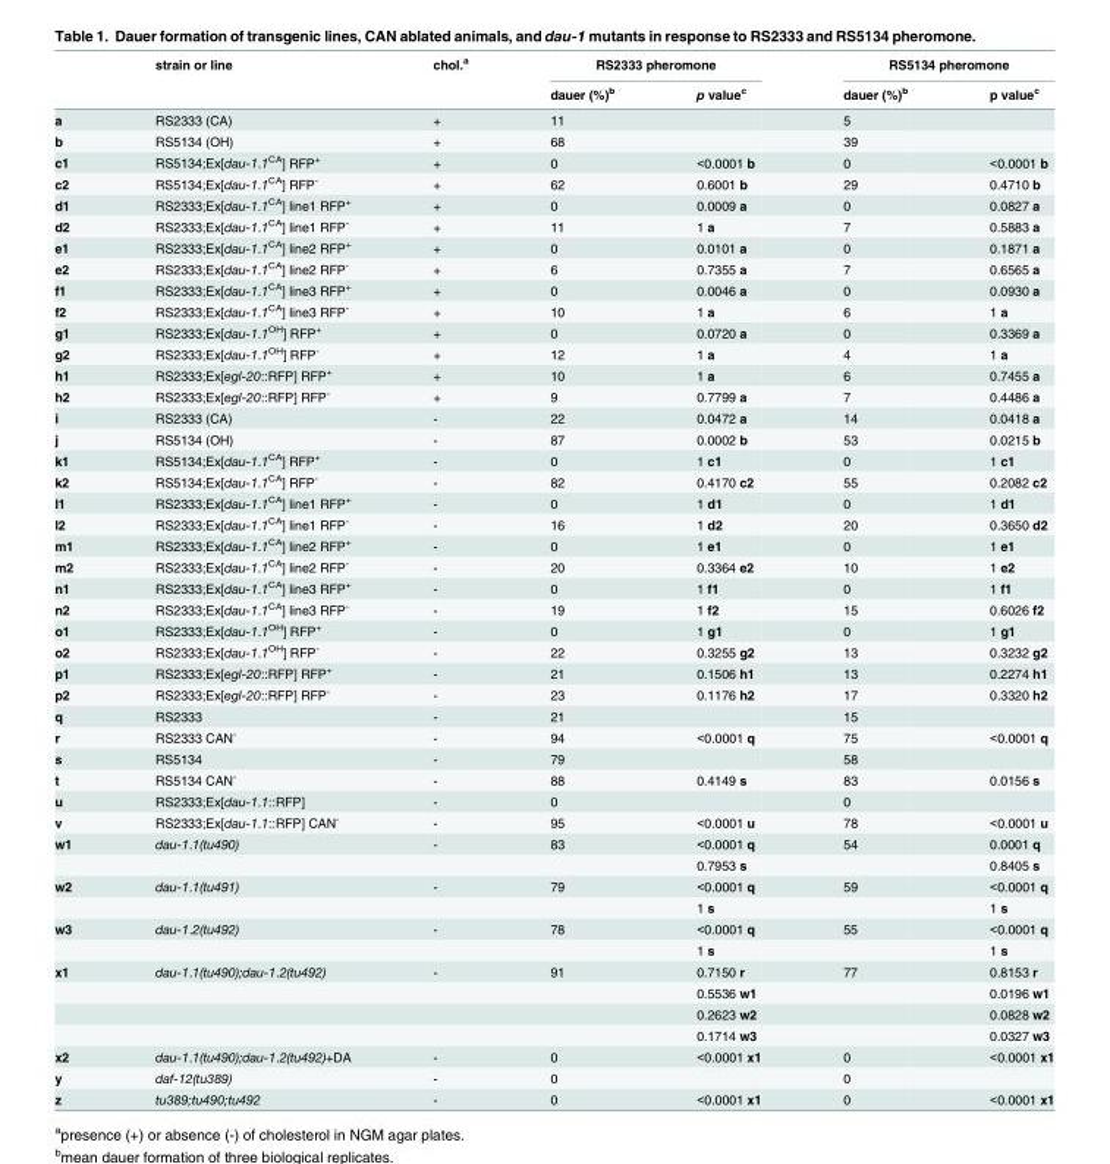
<table><thead><tr><td rowspan="2"></td><td rowspan="2">strain or line</td><td rowspan="2">chol.<sup>a</sup></td><td colspan="2">RS2333 pheromone</td><td colspan="2">RS5134 pheromone</td></tr><tr><td>dauer (%)<sup>b</sup></td><td>p value<sup>c</sup></td><td>dauer (%)<sup>b</sup></td><td>p value<sup>c</sup></td></tr></thead><tbody><tr><td>a</td><td>RS2333 (CA)</td><td>+</td><td>11</td><td></td><td>5</td><td></td></tr><tr><td>b</td><td>RS5134 (OH)</td><td>+</td><td>68</td><td></td><td>39</td><td></td></tr><tr><td>c1</td><td>RS5134;Ex[dau-1.1<sup>CA</sup>] RFP<sup>+</sup></td><td>+</td><td>0</td><td>&lt;0.0001 b</td><td>0</td><td>&lt;0.0001 b</td></tr><tr><td>c2</td><td>RS5134;Ex[dau-1.1<sup>CA</sup>] RFP<sup>-</sup></td><td>+</td><td>62</td><td>0.6001 b</td><td>29</td><td>0.4710 b</td></tr><tr><td>d1</td><td>RS2333;Ex[dau-1.1<sup>CA</sup>] line1 RFP<sup>+</sup></td><td>+</td><td>0</td><td>0.0009 a</td><td>0</td><td>0.0827 a</td></tr><tr><td>d2</td><td>RS2333;Ex[dau-1.1<sup>CA</sup>] line1 RFP<sup>-</sup></td><td>+</td><td>11</td><td>1 a</td><td>7</td><td>0.5883 a</td></tr><tr><td>e1</td><td>RS2333;Ex[dau-1.1<sup>CA</sup>] line2 RFP<sup>+</sup></td><td>+</td><td>0</td><td>0.0101 a</td><td>0</td><td>0.1871 a</td></tr><tr><td>e2</td><td>RS2333;Ex[dau-1.1<sup>CA</sup>] line2 RFP<sup>-</sup></td><td>+</td><td>6</td><td>0.7355 a</td><td>7</td><td>0.6565 a</td></tr><tr><td>f1</td><td>RS2333;Ex[dau-1.1<sup>CA</sup>] line3 RFP<sup>+</sup></td><td>+</td><td>0</td><td>0.0046 a</td><td>0</td><td>0.0930 a</td></tr><tr><td>f2</td><td>RS2333;Ex[dau-1.1<sup>CA</sup>] line3 RFP<sup>-</sup></td><td>+</td><td>10</td><td>1 a</td><td>6</td><td>1 a</td></tr><tr><td>g1</td><td>RS2333;Ex[dau-1.1<sup>OH</sup>] RFP<sup>+</sup></td><td>+</td><td>0</td><td>0.0720 a</td><td>0</td><td>0.3369 a</td></tr><tr><td>g2</td><td>RS2333;Ex[dau-1.1<sup>OH</sup>] RFP<sup>-</sup></td><td>+</td><td>12</td><td>1 a</td><td>4</td><td>1 a</td></tr><tr><td>h1</td><td>RS2333;Ex[egl-20::RFP] RFP<sup>+</sup></td><td>+</td><td>10</td><td>1 a</td><td>6</td><td>0.7455 a</td></tr><tr><td>h2</td><td>RS2333;Ex[egl-20::RFP] RFP<sup>-</sup></td><td>+</td><td>9</td><td>0.7799 a</td><td>7</td><td>0.4486 a</td></tr><tr><td>i</td><td>RS2333 (CA)</td><td>-</td><td>22</td><td>0.0472 a</td><td>14</td><td>0.0418 a</td></tr><tr><td>j</td><td>RS5134 (OH)</td><td>-</td><td>87</td><td>0.0002 b</td><td>53</td><td>0.0215 b</td></tr><tr><td>k1</td><td>RS5134;Ex[dau-1.1<sup>CA</sup>] RFP<sup>+</sup></td><td>-</td><td>0</td><td>1 c1</td><td>0</td><td>1 c1</td></tr><tr><td>k2</td><td>RS5134;Ex[dau-1.1<sup>CA</sup>] RFP<sup>-</sup></td><td>-</td><td>82</td><td>0.4170 c2</td><td>55</td><td>0.2082 c2</td></tr><tr><td>l1</td><td>RS2333;Ex[dau-1.1<sup>CA</sup>] line1 RFP<sup>+</sup></td><td>-</td><td>0</td><td>1 d1</td><td>0</td><td>1 d1</td></tr><tr><td>l2</td><td>RS2333;Ex[dau-1.1<sup>CA</sup>] line1 RFP<sup>-</sup></td><td>-</td><td>16</td><td>1 d2</td><td>20</td><td>0.3650 d2</td></tr><tr><td>m1</td><td>RS2333;Ex[dau-1.1<sup>CA</sup>] line2 RFP<sup>+</sup></td><td>-</td><td>0</td><td>1 e1</td><td>0</td><td>1 e1</td></tr><tr><td>m2</td><td>RS2333;Ex[dau-1.1<sup>CA</sup>] line2 RFP<sup>-</sup></td><td>-</td><td>20</td><td>0.3364 e2</td><td>10</td><td>1 e2</td></tr><tr><td>n1</td><td>RS2333;Ex[dau-1.1<sup>CA</sup>] line3 RFP<sup>+</sup></td><td>-</td><td>0</td><td>1 f1</td><td>0</td><td>1 f1</td></tr><tr><td>n2</td><td>RS2333;Ex[dau-1.1<sup>CA</sup>] line3 RFP<sup>-</sup></td><td>-</td><td>19</td><td>1 f2</td><td>15</td><td>0.6026 f2</td></tr><tr><td>o1</td><td>RS2333;Ex[dau-1.1<sup>OH</sup>] RFP<sup>+</sup></td><td>-</td><td>0</td><td>1 g1</td><td>0</td><td>1 g1</td></tr><tr><td>o2</td><td>RS2333;Ex[dau-1.1<sup>OH</sup>] RFP<sup>-</sup></td><td>-</td><td>22</td><td>0.3255 g2</td><td>13</td><td>0.3232 g2</td></tr><tr><td>p1</td><td>RS2333;Ex[egl-20::RFP] RFP<sup>+</sup></td><td>-</td><td>21</td><td>0.1506 h1</td><td>13</td><td>0.2274 h1</td></tr><tr><td>p2</td><td>RS2333;Ex[egl-20::RFP] RFP<sup>-</sup></td><td>-</td><td>23</td><td>0.1176 h2</td><td>17</td><td>0.3320 h2</td></tr><tr><td>q</td><td>RS2333</td><td>-</td><td>21</td><td></td><td>15</td><td></td></tr><tr><td>r</td><td>RS2333 CAN<sup>-</sup></td><td>-</td><td>94</td><td>&lt;0.0001 q</td><td>75</td><td>&lt;0.0001 q</td></tr><tr><td>s</td><td>RS5134</td><td>-</td><td>79</td><td></td><td>58</td><td></td></tr><tr><td>t</td><td>RS5134 CAN<sup>-</sup></td><td>-</td><td>88</td><td>0.4149 s</td><td>83</td><td>0.0156 s</td></tr><tr><td>u</td><td>RS2333;Ex[dau-1.1::RFP]</td><td>-</td><td>0</td><td></td><td>0</td><td></td></tr><tr><td>v</td><td>RS2333;Ex[dau-1.1::RFP] CAN<sup>-</sup></td><td>-</td><td>95</td><td>&lt;0.0001 u</td><td>78</td><td>&lt;0.0001 u</td></tr><tr><td rowspan="2">w1</td><td>dau-1.1(tu490)</td><td>-</td><td>83</td><td>&lt;0.0001 q</td><td>54</td><td>0.0001 q</td></tr><tr><td></td><td></td><td></td><td>0.7953 s</td><td></td><td>0.8405 s</td></tr><tr><td rowspan="2">w2</td><td>dau-1.1(tu491)</td><td>-</td><td>79</td><td>&lt;0.0001 q</td><td>59</td><td>&lt;0.0001 q</td></tr><tr><td></td><td></td><td></td><td>1 s</td><td></td><td>1 s</td></tr><tr><td rowspan="2">w3</td><td>dau-1.2(tu492)</td><td>-</td><td>78</td><td>&lt;0.0001 q</td><td>55</td><td>&lt;0.0001 q</td></tr><tr><td></td><td></td><td></td><td>1 s</td><td></td><td>1 s</td></tr><tr><td rowspan="4">x1</td><td>dau-1.1(tu490);dau-1.2(tu492)</td><td>-</td><td>91</td><td>0.7150 r</td><td>77</td><td>0.8153 r</td></tr><tr><td></td><td></td><td></td><td>0.5536 w1</td><td></td><td>0.0196 w1</td></tr><tr><td></td><td></td><td></td><td>0.2623 w2</td><td></td><td>0.0828 w2</td></tr><tr><td></td><td></td><td></td><td>0.1714 w3</td><td></td><td>0.0327 w3</td></tr><tr><td>x2</td><td>dau-1.1(tu490);dau-1.2(tu492)+DA</td><td>-</td><td>0</td><td>&lt;0.0001 x1</td><td>0</td><td>&lt;0.0001 x1</td></tr><tr><td>y</td><td>daf-12(tu389)</td><td>-</td><td>0</td><td></td><td>0</td><td></td></tr><tr><td>z</td><td>tu389;tu490;tu492</td><td>-</td><td>0</td><td>&lt;0.0001 x1</td><td>0</td><td>&lt;0.0001 x1</td></tr></tbody></table>